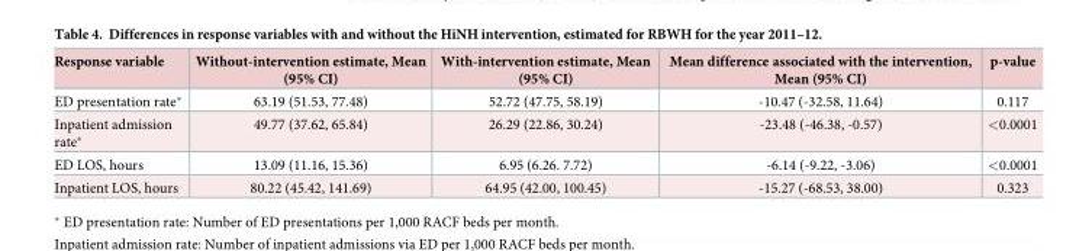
<table><thead><tr><td>Response variable</td><td>Without-intervention estimate, Mean (95% CI)</td><td>With-intervention estimate, Mean (95% CI)</td><td>Mean difference associated with the intervention, Mean (95% CI)</td><td>p-value</td></tr></thead><tbody><tr><td>ED presentation rate*</td><td>63.19 (51.53, 77.48)</td><td>52.72 (47.75, 58.19)</td><td>-10.47 (-32.58, 11.64)</td><td>0.117</td></tr><tr><td>Inpatient admission rate*</td><td>49.77 (37.62, 65.84)</td><td>26.29 (22.86, 30.24)</td><td>-23.48 (-46.38, -0.57)</td><td>&lt;0.0001</td></tr><tr><td>ED LOS, hours</td><td>13.09 (11.16, 15.36)</td><td>6.95 (6.26. 7.72)</td><td>-6.14 (-9.22, -3.06)</td><td>&lt;0.0001</td></tr><tr><td>Inpatient LOS, hours</td><td>80.22 (45.42, 141.69)</td><td>64.95 (42.00, 100.45)</td><td>-15.27 (-68.53, 38.00)</td><td>0.323</td></tr></tbody></table>